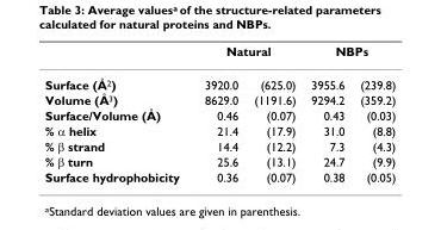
<table><thead><tr><td rowspan="2">Surface (Å<sup>2</sup>)</td><td colspan="2">Natural</td><td colspan="2">NBPs</td></tr><tr><td>3920.0</td><td>(625.0)</td><td>3955.6</td><td>(239.8)</td></tr></thead><tbody><tr><td>Volume (Å<sup>3</sup>)</td><td>8629.0</td><td>(1191.6)</td><td>9294.2</td><td>(359.2)</td></tr><tr><td>Surface/Volume (Å)</td><td>0.46</td><td>(0.07)</td><td>0.43</td><td>(0.03)</td></tr><tr><td>% α helix</td><td>21.4</td><td>(17.9)</td><td>31.0</td><td>(8.8)</td></tr><tr><td>% β strand</td><td>14.4</td><td>(12.2)</td><td>7.3</td><td>(4.3)</td></tr><tr><td>% β turn</td><td>25.6</td><td>(13.1)</td><td>24.7</td><td>(9.9)</td></tr><tr><td>Surface hydrophobicity</td><td>0.36</td><td>(0.07)</td><td>0.38</td><td>(0.05)</td></tr></tbody></table>